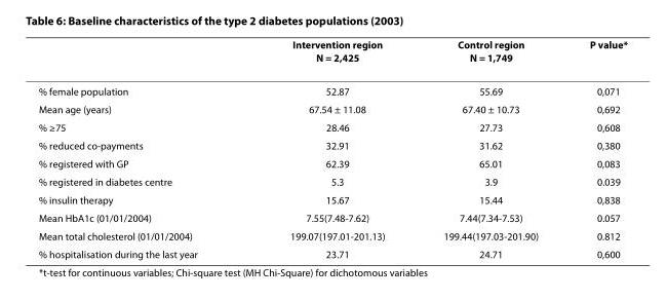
<table><thead><tr><td></td><td>Intervention region N = 2,425</td><td>Control region N = 1,749</td><td>P value*</td></tr></thead><tbody><tr><td>% female population</td><td>52.87</td><td>55.69</td><td>0,071</td></tr><tr><td>Mean age (years)</td><td>67.54 ± 11.08</td><td>67.40 ± 10.73</td><td>0,692</td></tr><tr><td>% ≥75</td><td>28.46</td><td>27.73</td><td>0,608</td></tr><tr><td>% reduced co-payments</td><td>32.91</td><td>31.62</td><td>0,380</td></tr><tr><td>% registered with GP</td><td>62.39</td><td>65.01</td><td>0,083</td></tr><tr><td>% registered in diabetes centre</td><td>5.3</td><td>3.9</td><td>0.039</td></tr><tr><td>% insulin therapy</td><td>15.67</td><td>15.44</td><td>0,838</td></tr><tr><td>Mean HbA1c (01/01/2004)</td><td>7.55(7.48-7.62)</td><td>7.44(7.34-7.53)</td><td>0.057</td></tr><tr><td>Mean total cholesterol (01/01/2004)</td><td>199.07(197.01-201.13)</td><td>199.44(197.03-201.90)</td><td>0.812</td></tr><tr><td>% hospitalisation during the last year</td><td>23.71</td><td>24.71</td><td>0,600</td></tr></tbody></table>